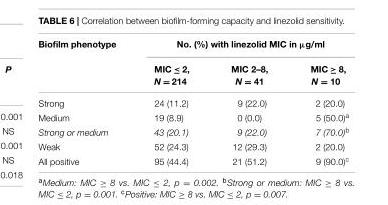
<table><thead><tr><td rowspan="2">Biofilm phenotype</td><td colspan="3">No. (%) with linezolid MIC in µg/ml</td></tr><tr><td>MIC ≤ 2, N = 214</td><td>MIC 2–8, N = 41</td><td>MIC ≥ 8, N = 10</td></tr></thead><tbody><tr><td>Strong</td><td>24 (11.2)</td><td>9 (22.0)</td><td>2 (20.0)</td></tr><tr><td>Medium</td><td>19 (8.9)</td><td>0 (0.0)</td><td>5 (50.0)<sup>a</sup></td></tr><tr><td>Strong or medium</td><td>43 (20.1)</td><td>9 (22.0)</td><td>7 (70.0)<sup>b</sup></td></tr><tr><td>Weak</td><td>52 (24.3)</td><td>12 (29.3)</td><td>2 (20.0)</td></tr><tr><td>All positive</td><td>95 (44.4)</td><td>21 (51.2)</td><td>9 (90.0)<sup>c</sup></td></tr></tbody></table>